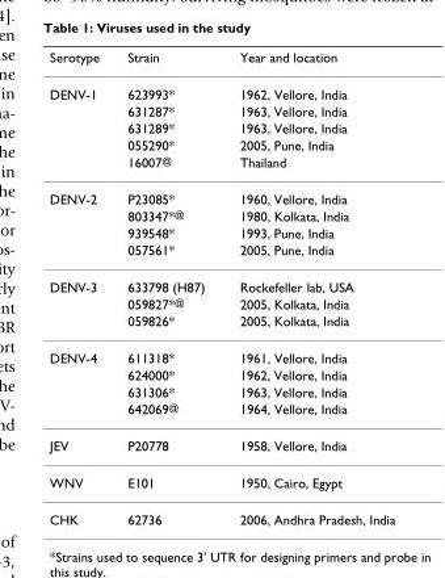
<table><thead><tr><td>Serotype</td><td>Strain</td><td>Year and location</td></tr></thead><tbody><tr><td rowspan="5">DENV-1</td><td>623993*</td><td>1962, Vellore, India</td></tr><tr><td>631287*</td><td>1963, Vellore, India</td></tr><tr><td>631289*</td><td>1963, Vellore, India</td></tr><tr><td>055290*</td><td>2005, Pune, India</td></tr><tr><td>16007<sup>@</sup></td><td>Thailand</td></tr><tr><td rowspan="4">DENV-2</td><td>P23085*</td><td>1960, Vellore, India</td></tr><tr><td>803347*<sup>@</sup></td><td>1980, Kolkata, India</td></tr><tr><td>939548*</td><td>1993, Pune, India</td></tr><tr><td>057561*</td><td>2005, Pune, India</td></tr><tr><td rowspan="3">DENV-3</td><td>633798 (H87)</td><td>Rockefeller lab, USA</td></tr><tr><td>059827*<sup>@</sup></td><td>2005, Kolkata, India</td></tr><tr><td>059826*</td><td>2005, Kolkata, India</td></tr><tr><td rowspan="4">DENV-4</td><td>611318*</td><td>1961, Vellore, India</td></tr><tr><td>624000*</td><td>1962, Vellore, India</td></tr><tr><td>631306*</td><td>1963, Vellore, India</td></tr><tr><td>642069<sup>@</sup></td><td>1964, Vellore, India</td></tr><tr><td>JEV</td><td>P20778</td><td>1958, Vellore, India</td></tr><tr><td>WNV</td><td>E101</td><td>1950, Cairo, Egypt</td></tr><tr><td>CHK</td><td>62736</td><td>2006, Andhra Pradesh, India</td></tr></tbody></table>